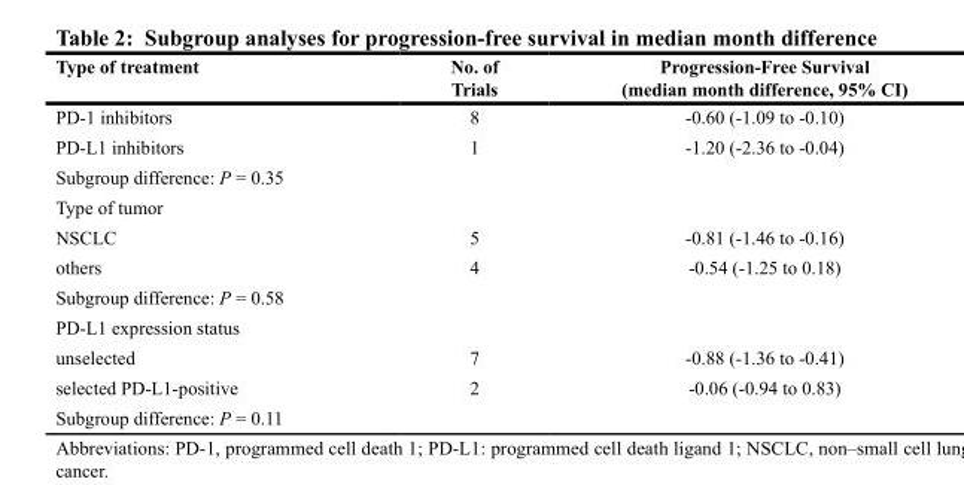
<table><thead><tr><td>Type of treatment</td><td>No. of Trials</td><td>Progression-Free Survival (median month difference, 95% CI)</td></tr></thead><tbody><tr><td>PD-1 inhibitors</td><td>8</td><td>-0.60 (-1.09 to -0.10)</td></tr><tr><td>PD-L1 inhibitors</td><td>1</td><td>-1.20 (-2.36 to -0.04)</td></tr><tr><td colspan="3">Subgroup difference: P = 0.35</td></tr><tr><td colspan="3">Type of tumor</td></tr><tr><td>NSCLC</td><td>5</td><td>-0.81 (-1.46 to -0.16)</td></tr><tr><td>others</td><td>4</td><td>-0.54 (-1.25 to 0.18)</td></tr><tr><td colspan="3">Subgroup difference: P = 0.58</td></tr><tr><td colspan="3">PD-L1 expression status</td></tr><tr><td>unselected</td><td>7</td><td>-0.88 (-1.36 to -0.41)</td></tr><tr><td>selected PD-L1-positive</td><td>2</td><td>-0.06 (-0.94 to 0.83)</td></tr><tr><td>Subgroup difference: P = 0.11</td><td></td><td></td></tr></tbody></table>